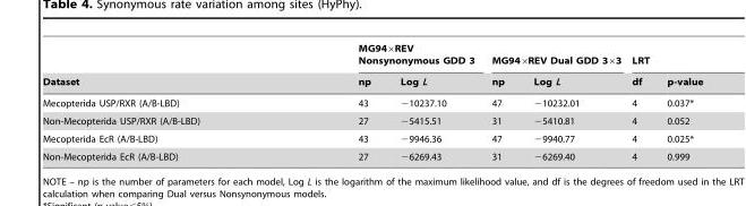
<table><thead><tr><td rowspan="2">Dataset</td><td colspan="2">MG94×REV Nonsynonymous GDD 3</td><td colspan="2">MG94×REV Dual GDD 3×3</td><td colspan="2">LRT</td></tr><tr><td>np</td><td>Log L</td><td>np</td><td>Log L</td><td>df</td><td>p-value</td></tr></thead><tbody><tr><td>Mecopterida USP/RXR (A/B-LBD)</td><td>43</td><td>−10237.10</td><td>47</td><td>−10232.01</td><td>4</td><td>0.037*</td></tr><tr><td>Non-Mecopterida USP/RXR (A/B-LBD)</td><td>27</td><td>−5415.51</td><td>31</td><td>−5410.81</td><td>4</td><td>0.052</td></tr><tr><td>Mecopterida EcR (A/B-LBD)</td><td>43</td><td>−9946.36</td><td>47</td><td>−9940.77</td><td>4</td><td>0.025*</td></tr><tr><td>Non-Mecopterida EcR (A/B-LBD)</td><td>27</td><td>−6269.43</td><td>31</td><td>−6269.40</td><td>4</td><td>0.999</td></tr></tbody></table>